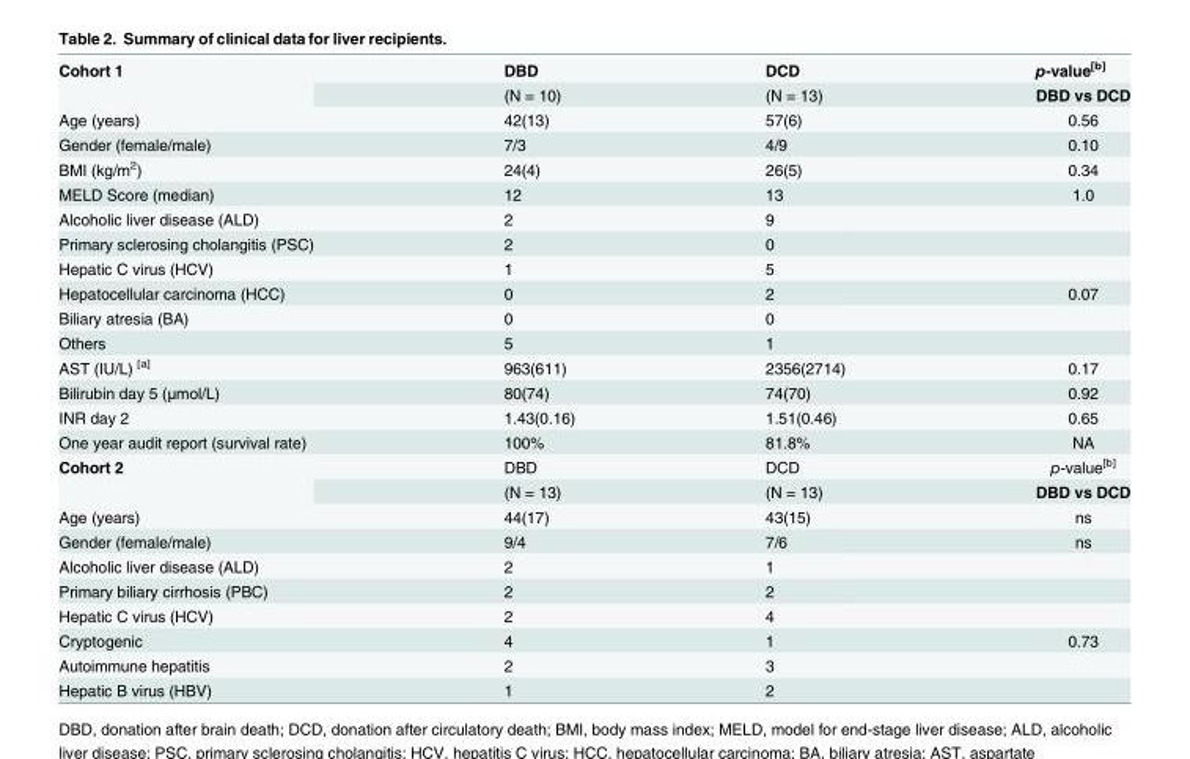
<table><tbody><tr><td rowspan="2">Cohort 1</td><td>DBD</td><td>DCD</td><td>p-value<sup>[b]</sup></td></tr><tr><td>(N = 10)</td><td>(N = 13)</td><td>DBD vs DCD</td></tr><tr><td>Age (years)</td><td>42(13)</td><td>57(6)</td><td>0.56</td></tr><tr><td>Gender (female/male)</td><td>7/3</td><td>4/9</td><td>0.10</td></tr><tr><td>BMI (kg/m<sup>2</sup>)</td><td>24(4)</td><td>26(5)</td><td>0.34</td></tr><tr><td>MELD Score (median)</td><td>12</td><td>13</td><td>1.0</td></tr><tr><td>Alcoholic liver disease (ALD)</td><td>2</td><td>9</td><td></td></tr><tr><td>Primary sclerosing cholangitis (PSC)</td><td>2</td><td>0</td><td></td></tr><tr><td>Hepatic C virus (HCV)</td><td>1</td><td>5</td><td></td></tr><tr><td>Hepatocellular carcinoma (HCC)</td><td>0</td><td>2</td><td>0.07</td></tr><tr><td>Biliary atresia (BA)</td><td>0</td><td>0</td><td></td></tr><tr><td>Others</td><td>5</td><td>1</td><td></td></tr><tr><td>AST (IU/L) <sup>[a]</sup></td><td>963(611)</td><td>2356(2714)</td><td>0.17</td></tr><tr><td>Bilirubin day 5 (μmol/L)</td><td>80(74)</td><td>74(70)</td><td>0.92</td></tr><tr><td>INR day 2</td><td>1.43(0.16)</td><td>1.51(0.46)</td><td>0.65</td></tr><tr><td>One year audit report (survival rate)</td><td>100%</td><td>81.8%</td><td>NA</td></tr><tr><td rowspan="2">Cohort 2</td><td>DBD</td><td>DCD</td><td>p-value<sup>[b]</sup></td></tr><tr><td>(N = 13)</td><td>(N = 13)</td><td>DBD vs DCD</td></tr><tr><td>Age (years)</td><td>44(17)</td><td>43(15)</td><td>ns</td></tr><tr><td>Gender (female/male)</td><td>9/4</td><td>7/6</td><td>ns</td></tr><tr><td>Alcoholic liver disease (ALD)</td><td>2</td><td>1</td><td></td></tr><tr><td>Primary biliary cirrhosis (PBC)</td><td>2</td><td>2</td><td></td></tr><tr><td>Hepatic C virus (HCV)</td><td>2</td><td>4</td><td></td></tr><tr><td>Cryptogenic</td><td>4</td><td>1</td><td>0.73</td></tr><tr><td>Autoimmune hepatitis</td><td>2</td><td>3</td><td></td></tr><tr><td>Hepatic B virus (HBV)</td><td>1</td><td>2</td><td></td></tr></tbody></table>